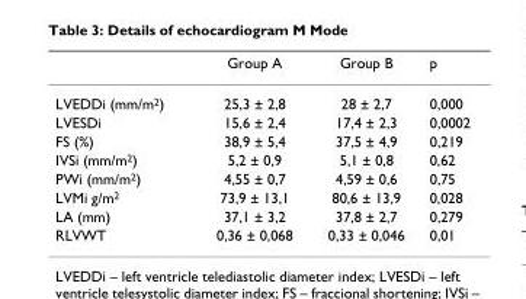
<table><thead><tr><td></td><td>Group A</td><td>Group B</td><td>p</td></tr></thead><tbody><tr><td>LVEDDi (mm/m<sup>2</sup>)</td><td>25,3 ± 2,8</td><td>28 ± 2,7</td><td>0,000</td></tr><tr><td>LVESDi</td><td>15,6 ± 2,4</td><td>17,4 ± 2,3</td><td>0,0002</td></tr><tr><td>FS (%)</td><td>38,9 ± 5,4</td><td>37,5 ± 4,9</td><td>0,219</td></tr><tr><td>IVSi (mm/m<sup>2</sup>)</td><td>5,2 ± 0,9</td><td>5,1 ± 0,8</td><td>0,62</td></tr><tr><td>PWi (mm/m<sup>2</sup>)</td><td>4,55 ± 0,7</td><td>4,59 ± 0,6</td><td>0,75</td></tr><tr><td>LVMi g/m<sup>2</sup></td><td>73,9 ± 13,1</td><td>80,6 ± 13,9</td><td>0,028</td></tr><tr><td>LA (mm)</td><td>37,1 ± 3,2</td><td>37,8 ± 2,7</td><td>0,279</td></tr><tr><td>RLVWT</td><td>0,36 ± 0,068</td><td>0,33 ± 0,046</td><td>0,01</td></tr></tbody></table>